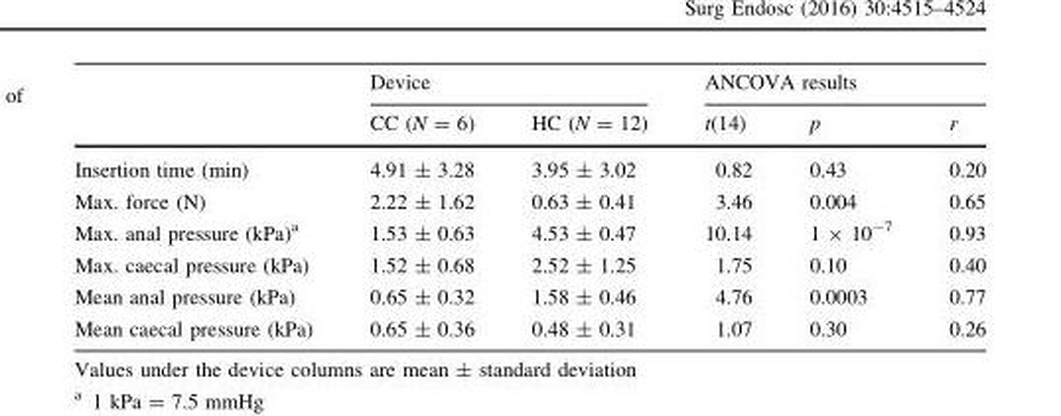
<table><thead><tr><td rowspan="2"></td><td colspan="2">Device</td><td colspan="3">ANCOVA results</td></tr><tr><td>CC (N = 6)</td><td>HC (N = 12)</td><td>t(14)</td><td>p</td><td>r</td></tr></thead><tbody><tr><td>Insertion time (min)</td><td>4.91 ± 3.28</td><td>3.95 ± 3.02</td><td>0.82</td><td>0.43</td><td>0.20</td></tr><tr><td>Max. force (N)</td><td>2.22 ± 1.62</td><td>0.63 ± 0.41</td><td>3.46</td><td>0.004</td><td>0.65</td></tr><tr><td>Max. anal pressure (kPa)<sup>a</sup></td><td>1.53 ± 0.63</td><td>4.53 ± 0.47</td><td>10.14</td><td>1 × 10<sup>-7</sup></td><td>0.93</td></tr><tr><td>Max. caecal pressure (kPa)</td><td>1.52 ± 0.68</td><td>2.52 ± 1.25</td><td>1.75</td><td>0.10</td><td>0.40</td></tr><tr><td>Mean anal pressure (kPa)</td><td>0.65 ± 0.32</td><td>1.58 ± 0.46</td><td>4.76</td><td>0.0003</td><td>0.77</td></tr><tr><td>Mean caecal pressure (kPa)</td><td>0.65 ± 0.36</td><td>0.48 ± 0.31</td><td>1.07</td><td>0.30</td><td>0.26</td></tr></tbody></table>